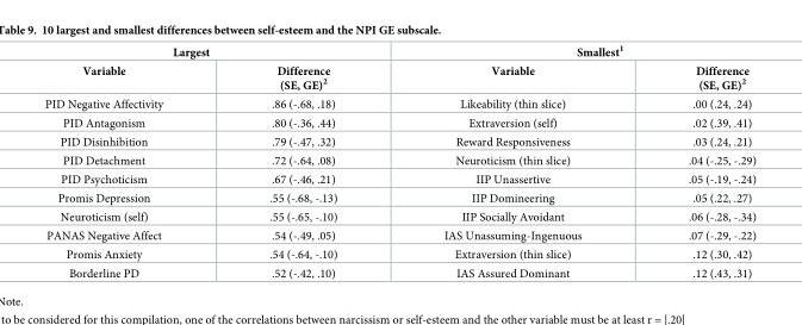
<table><thead><tr><td colspan="2">Largest</td><td colspan="2">Smallest<sup>1</sup></td></tr><tr><td>Variable</td><td>Difference (SE, GE)<sup>2</sup></td><td>Variable</td><td>Difference (SE, GE)<sup>2</sup></td></tr></thead><tbody><tr><td>PID Negative Affectivity</td><td>.86 (-.68, .18)</td><td>Likeability (thin slice)</td><td>.00 (.24, .24)</td></tr><tr><td>PID Antagonism</td><td>.80 (-.36, .44)</td><td>Extraversion (self)</td><td>.02 (.39, .41)</td></tr><tr><td>PID Disinhibition</td><td>.79 (-.47, .32)</td><td>Reward Responsiveness</td><td>.03 (.24, .21)</td></tr><tr><td>PID Detachment</td><td>.72 (-.64, .08)</td><td>Neuroticism (thin slice)</td><td>.04 (-.25, -.29)</td></tr><tr><td>PID Psychoticism</td><td>.67 (-.46, .21)</td><td>IIP Unassertive</td><td>.05 (-.19, -.24)</td></tr><tr><td>Promis Depression</td><td>.55 (-.68, -.13)</td><td>IIP Domineering</td><td>.05 (.22, .27)</td></tr><tr><td>Neuroticism (self)</td><td>.55 (-.65, -.10)</td><td>IIP Socially Avoidant</td><td>.06 (-.28, -.34)</td></tr><tr><td>PANAS Negative Affect</td><td>.54 (-.49, .05)</td><td>IAS Unassuming-Ingenuous</td><td>.07 (-.29, -.22)</td></tr><tr><td>Promis Anxiety</td><td>.54 (-.64, -.10)</td><td>Extraversion (thin slice)</td><td>.12 (.30, .42)</td></tr><tr><td>Borderline PD</td><td>.52 (-.42, .10)</td><td>IAS Assured Dominant</td><td>.12 (.43, .31)</td></tr></tbody></table>